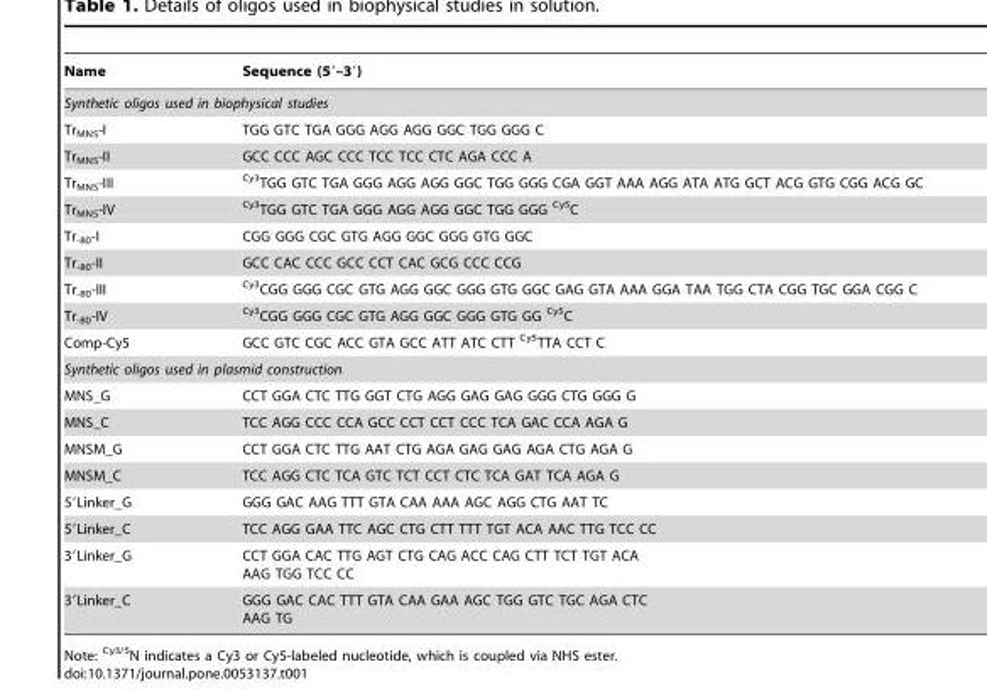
<table><thead><tr><td>Name</td><td>Sequence (5′–3′)</td></tr></thead><tbody><tr><td colspan="2">Synthetic oligos used in biophysical studies</td></tr><tr><td>Tr<sub>MNS</sub>-I</td><td>TGG GTC TGA GGG AGG AGG GGC TGG GGG C</td></tr><tr><td>Tr<sub>MNS</sub>-II</td><td>GCC CCC AGC CCC TCC TCC CTC AGA CCC A</td></tr><tr><td>Tr<sub>MNS</sub>-III</td><td><sup>Cy3</sup>TGG GTC TGA GGG AGG AGG GGC TGG GGG CGA GGT AAA AGG ATA ATG GCT ACG GTG CGG ACG GC</td></tr><tr><td>Tr<sub>MNS</sub>-IV</td><td><sup>Cy3</sup>TGG GTC TGA GGG AGG AGG GGC TGG GGG <sup>Cy5</sup>C</td></tr><tr><td>Tr<sub>-80</sub>-I</td><td>CGG GGG CGC GTG AGG GGC GGG GTG GGC</td></tr><tr><td>Tr<sub>-80</sub>-II</td><td>GCC CAC CCC GCC CCT CAC GCG CCC CCG</td></tr><tr><td>Tr<sub>-80</sub>-III</td><td><sup>Cy3</sup>CGG GGG CGC GTG AGG GGC GGG GTG GGC GAG GTA AAA GGA TAA TGG CTA CGG TGC GGA CGG C</td></tr><tr><td>Tr<sub>-80</sub>-IV</td><td><sup>Cy3</sup>CGG GGG CGC GTG AGG GGC GGG GTG GG <sup>Cy5</sup>C</td></tr><tr><td>Comp-Cy5</td><td>GCC GTC CGC ACC GTA GCC ATT ATC CTT <sup>Cy5</sup>TTA CCT C</td></tr><tr><td colspan="2">Synthetic oligos used in plasmid construction</td></tr><tr><td>MNS_G</td><td>CCT GGA CTC TTG GGT CTG AGG GAG GAG GGG CTG GGG G</td></tr><tr><td>MNS_C</td><td>TCC AGG CCC CCA GCC CCT CCT CCC TCA GAC CCA AGA G</td></tr><tr><td>MNSM_G</td><td>CCT GGA CTC TTG AAT CTG AGA GAG GAG AGA CTG AGA G</td></tr><tr><td>MNSM_C</td><td>TCC AGG CTC TCA GTC TCT CCT CTC TCA GAT TCA AGA G</td></tr><tr><td>5′Linker_G</td><td>GGG GAC AAG TTT GTA CAA AAA AGC AGG CTG AAT TC</td></tr><tr><td>5′Linker_C</td><td>TCC AGG GAA TTC AGC CTG CTT TTT TGT ACA AAC TTG TCC CC</td></tr><tr><td>3′Linker_G</td><td>CCT GGA CAC TTG AGT CTG CAG ACC CAG CTT TCT TGT ACA AAG TGG TCC CC</td></tr><tr><td>3′Linker_C</td><td>GGG GAC CAC TTT GTA CAA GAA AGC TGG GTC TGC AGA CTC AAG TG</td></tr></tbody></table>